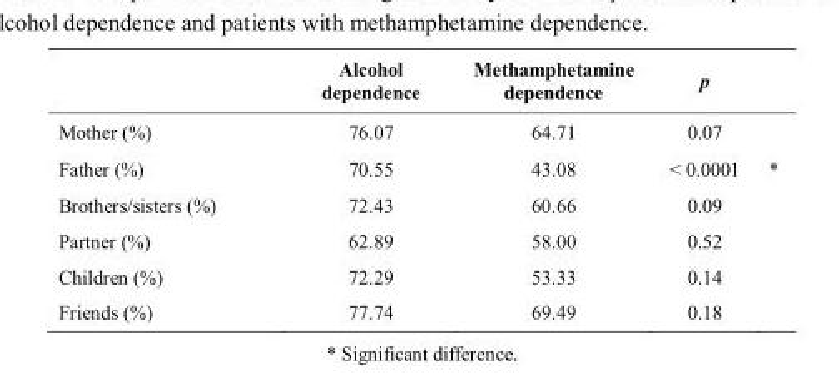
<table><thead><tr><td></td><td>Alcohol dependence</td><td>Methamphetamine dependence</td><td>p</td></tr></thead><tbody><tr><td>Mother (%)</td><td>76.07</td><td>64.71</td><td>0.07</td></tr><tr><td>Father (%)</td><td>70.55</td><td>43.08</td><td>&lt; 0.0001 *</td></tr><tr><td>Brothers/sisters (%)</td><td>72.43</td><td>60.66</td><td>0.09</td></tr><tr><td>Partner (%)</td><td>62.89</td><td>58.00</td><td>0.52</td></tr><tr><td>Children (%)</td><td>72.29</td><td>53.33</td><td>0.14</td></tr><tr><td>Friends (%)</td><td>77.74</td><td>69.49</td><td>0.18</td></tr></tbody></table>